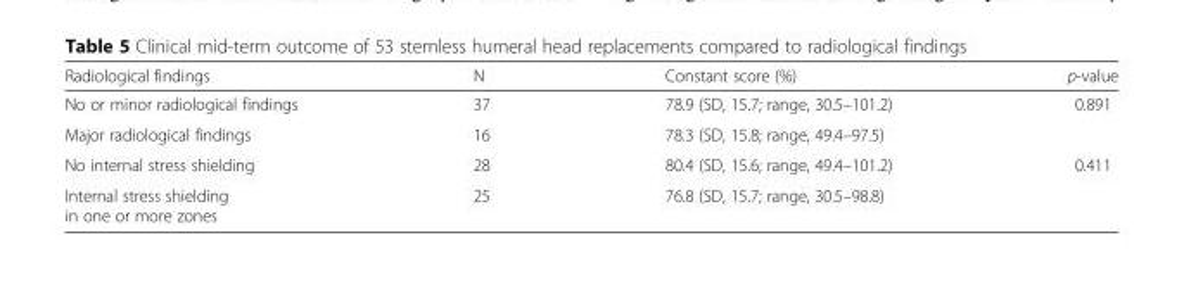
<table><thead><tr><td>Radiological findings</td><td>N</td><td>Constant score (%)</td><td>p-value</td></tr></thead><tbody><tr><td>No or minor radiological findings</td><td>37</td><td>78.9 (SD, 15.7; range, 30.5–101.2)</td><td rowspan="2">0.891</td></tr><tr><td>Major radiological findings</td><td>16</td><td>78.3 (SD, 15.8; range, 49.4–97.5)</td></tr><tr><td>No internal stress shielding</td><td>28</td><td>80.4 (SD, 15.6; range, 49.4–101.2)</td><td rowspan="2">0.411</td></tr><tr><td>Internal stress shielding in one or more zones</td><td>25</td><td>76.8 (SD, 15.7; range, 30.5–98.8)</td></tr></tbody></table>